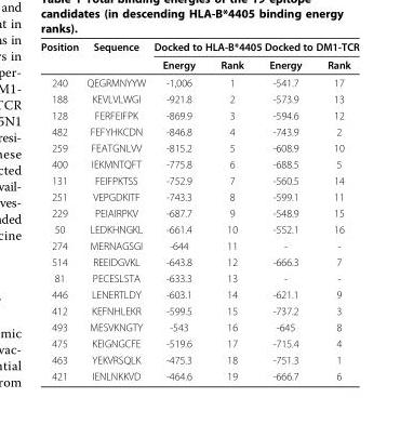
<table><thead><tr><td rowspan="2">Position</td><td rowspan="2">Sequence</td><td colspan="4">Docked to HLA-B*4405 Docked to DM1-TCR</td></tr><tr><td>Energy</td><td>Rank</td><td>Energy</td><td>Rank</td></tr></thead><tbody><tr><td>240</td><td>QEGRMNYYW</td><td>-1,006</td><td>1</td><td>-541.7</td><td>17</td></tr><tr><td>188</td><td>KEVLVLWGI</td><td>-921.8</td><td>2</td><td>-573.9</td><td>13</td></tr><tr><td>128</td><td>FERFEIFPK</td><td>-869.9</td><td>3</td><td>-594.6</td><td>12</td></tr><tr><td>482</td><td>FEFYHKCDN</td><td>-846.8</td><td>4</td><td>-743.9</td><td>2</td></tr><tr><td>259</td><td>FEATGNLVV</td><td>-815.2</td><td>5</td><td>-608.9</td><td>10</td></tr><tr><td>400</td><td>IEKMNTQFT</td><td>-775.8</td><td>6</td><td>-688.5</td><td>5</td></tr><tr><td>131</td><td>FEIFPKTSS</td><td>-752.9</td><td>7</td><td>-560.5</td><td>14</td></tr><tr><td>251</td><td>VEPGDKITF</td><td>-743.3</td><td>8</td><td>-599.1</td><td>11</td></tr><tr><td>229</td><td>PEIAIRPKV</td><td>-687.7</td><td>9</td><td>-548.9</td><td>15</td></tr><tr><td>50</td><td>LEDKHNGKL</td><td>-661.4</td><td>10</td><td>-552.1</td><td>16</td></tr><tr><td>274</td><td>MERNAGSGI</td><td>-644</td><td>11</td><td>-</td><td>-</td></tr><tr><td>514</td><td>REEIDGVKL</td><td>-643.8</td><td>12</td><td>-666.3</td><td>7</td></tr><tr><td>81</td><td>PECESLSTA</td><td>-633.3</td><td>13</td><td>-</td><td>-</td></tr><tr><td>446</td><td>LENERTLDY</td><td>-603.1</td><td>14</td><td>-621.1</td><td>9</td></tr><tr><td>412</td><td>KEFNHLEKR</td><td>-599.5</td><td>15</td><td>-737.2</td><td>3</td></tr><tr><td>493</td><td>MESVKNGTY</td><td>-543</td><td>16</td><td>-645</td><td>8</td></tr><tr><td>475</td><td>KEIGNGCFE</td><td>-519.6</td><td>17</td><td>-715.4</td><td>4</td></tr><tr><td>463</td><td>YEKVRSQLK</td><td>-475.3</td><td>18</td><td>-751.3</td><td>1</td></tr><tr><td>421</td><td>IENLNKKVD</td><td>-464.6</td><td>19</td><td>-666.7</td><td>6</td></tr></tbody></table>